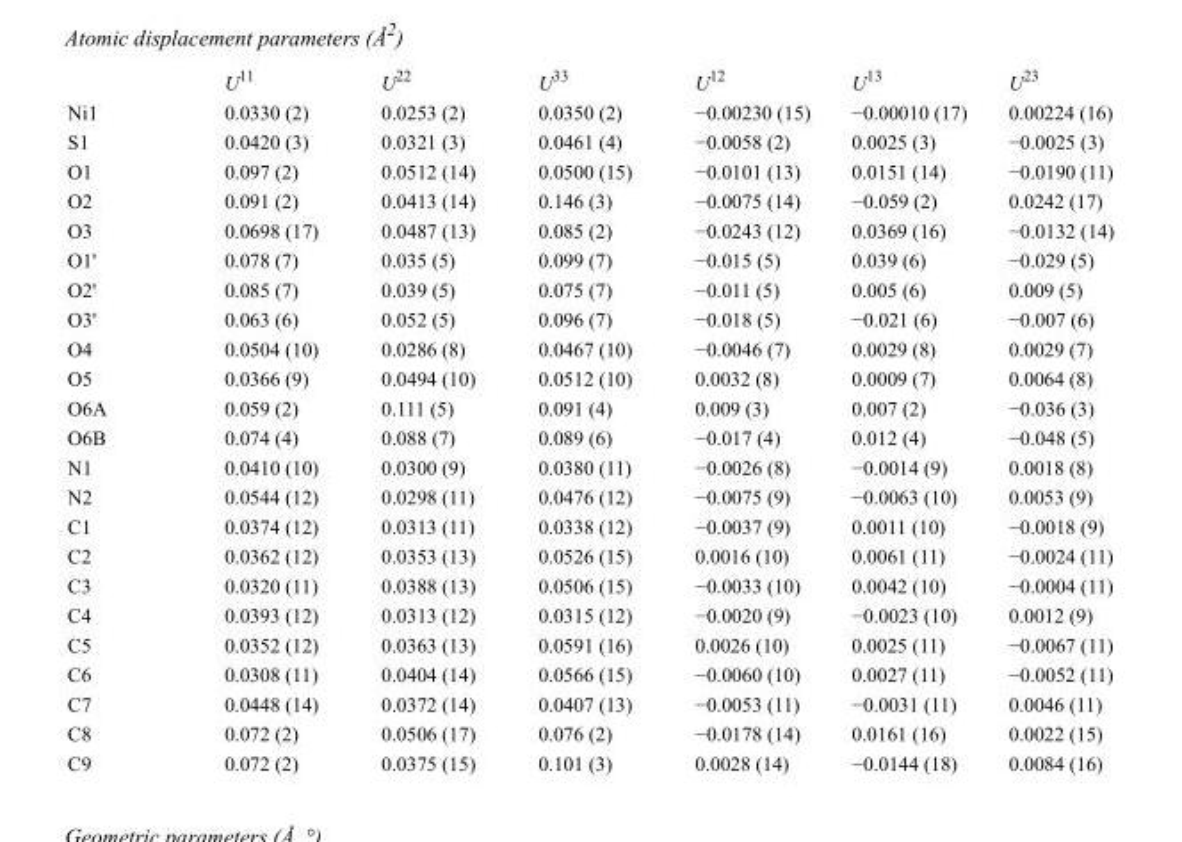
<table><thead><tr><td></td><td>U<sup>11</sup></td><td>U<sup>22</sup></td><td>U<sup>33</sup></td><td>U<sup>12</sup></td><td>U<sup>13</sup></td><td>U<sup>23</sup></td></tr></thead><tbody><tr><td>Ni1</td><td>0.0330 (2)</td><td>0.0253 (2)</td><td>0.0350 (2)</td><td>−0.00230 (15)</td><td>−0.00010 (17)</td><td>0.00224 (16)</td></tr><tr><td>S1</td><td>0.0420 (3)</td><td>0.0321 (3)</td><td>0.0461 (4)</td><td>−0.0058 (2)</td><td>0.0025 (3)</td><td>−0.0025 (3)</td></tr><tr><td>O1</td><td>0.097 (2)</td><td>0.0512 (14)</td><td>0.0500 (15)</td><td>−0.0101 (13)</td><td>0.0151 (14)</td><td>−0.0190 (11)</td></tr><tr><td>O2</td><td>0.091 (2)</td><td>0.0413 (14)</td><td>0.146 (3)</td><td>−0.0075 (14)</td><td>−0.059 (2)</td><td>0.0242 (17)</td></tr><tr><td>O3</td><td>0.0698 (17)</td><td>0.0487 (13)</td><td>0.085 (2)</td><td>−0.0243 (12)</td><td>0.0369 (16)</td><td>−0.0132 (14)</td></tr><tr><td>O1&#x27;</td><td>0.078 (7)</td><td>0.035 (5)</td><td>0.099 (7)</td><td>−0.015 (5)</td><td>0.039 (6)</td><td>−0.029 (5)</td></tr><tr><td>O2&#x27;</td><td>0.085 (7)</td><td>0.039 (5)</td><td>0.075 (7)</td><td>−0.011 (5)</td><td>0.005 (6)</td><td>0.009 (5)</td></tr><tr><td>O3&#x27;</td><td>0.063 (6)</td><td>0.052 (5)</td><td>0.096 (7)</td><td>−0.018 (5)</td><td>−0.021 (6)</td><td>−0.007 (6)</td></tr><tr><td>O4</td><td>0.0504 (10)</td><td>0.0286 (8)</td><td>0.0467 (10)</td><td>−0.0046 (7)</td><td>0.0029 (8)</td><td>0.0029 (7)</td></tr><tr><td>O5</td><td>0.0366 (9)</td><td>0.0494 (10)</td><td>0.0512 (10)</td><td>0.0032 (8)</td><td>0.0009 (7)</td><td>0.0064 (8)</td></tr><tr><td>O6A</td><td>0.059 (2)</td><td>0.111 (5)</td><td>0.091 (4)</td><td>0.009 (3)</td><td>0.007 (2)</td><td>−0.036 (3)</td></tr><tr><td>O6B</td><td>0.074 (4)</td><td>0.088 (7)</td><td>0.089 (6)</td><td>−0.017 (4)</td><td>0.012 (4)</td><td>−0.048 (5)</td></tr><tr><td>N1</td><td>0.0410 (10)</td><td>0.0300 (9)</td><td>0.0380 (11)</td><td>−0.0026 (8)</td><td>−0.0014 (9)</td><td>0.0018 (8)</td></tr><tr><td>N2</td><td>0.0544 (12)</td><td>0.0298 (11)</td><td>0.0476 (12)</td><td>−0.0075 (9)</td><td>−0.0063 (10)</td><td>0.0053 (9)</td></tr><tr><td>C1</td><td>0.0374 (12)</td><td>0.0313 (11)</td><td>0.0338 (12)</td><td>−0.0037 (9)</td><td>0.0011 (10)</td><td>−0.0018 (9)</td></tr><tr><td>C2</td><td>0.0362 (12)</td><td>0.0353 (13)</td><td>0.0526 (15)</td><td>0.0016 (10)</td><td>0.0061 (11)</td><td>−0.0024 (11)</td></tr><tr><td>C3</td><td>0.0320 (11)</td><td>0.0388 (13)</td><td>0.0506 (15)</td><td>−0.0033 (10)</td><td>0.0042 (10)</td><td>−0.0004 (11)</td></tr><tr><td>C4</td><td>0.0393 (12)</td><td>0.0313 (12)</td><td>0.0315 (12)</td><td>−0.0020 (9)</td><td>−0.0023 (10)</td><td>0.0012 (9)</td></tr><tr><td>C5</td><td>0.0352 (12)</td><td>0.0363 (13)</td><td>0.0591 (16)</td><td>0.0026 (10)</td><td>0.0025 (11)</td><td>−0.0067 (11)</td></tr><tr><td>C6</td><td>0.0308 (11)</td><td>0.0404 (14)</td><td>0.0566 (15)</td><td>−0.0060 (10)</td><td>0.0027 (11)</td><td>−0.0052 (11)</td></tr><tr><td>C7</td><td>0.0448 (14)</td><td>0.0372 (14)</td><td>0.0407 (13)</td><td>−0.0053 (11)</td><td>−0.0031 (11)</td><td>0.0046 (11)</td></tr><tr><td>C8</td><td>0.072 (2)</td><td>0.0506 (17)</td><td>0.076 (2)</td><td>−0.0178 (14)</td><td>0.0161 (16)</td><td>0.0022 (15)</td></tr><tr><td>C9</td><td>0.072 (2)</td><td>0.0375 (15)</td><td>0.101 (3)</td><td>0.0028 (14)</td><td>−0.0144 (18)</td><td>0.0084 (16)</td></tr></tbody></table>